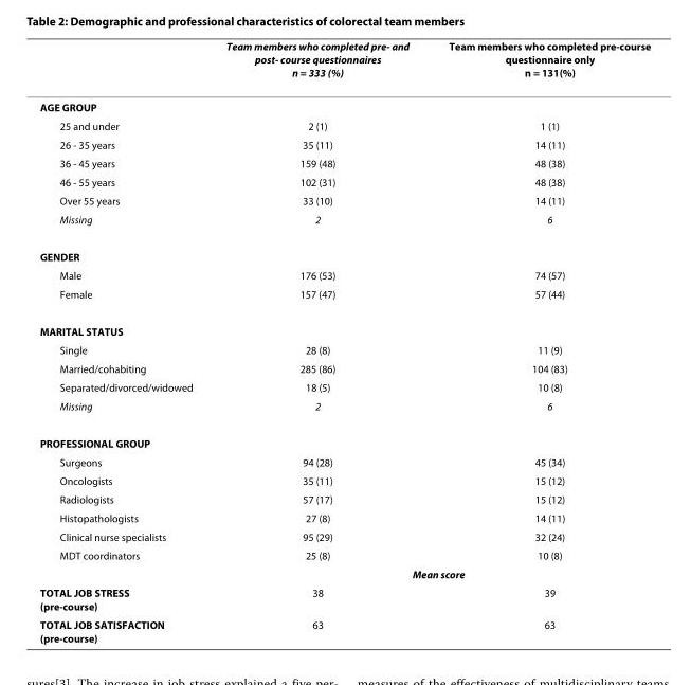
<table><thead><tr><td></td><td>Team members who completed pre- and post- course questionnaires n = 333 (%)</td><td>Team members who completed pre-course questionnaire only n = 131(%)</td></tr></thead><tbody><tr><td colspan="3">AGE GROUP</td></tr><tr><td>25 and under</td><td>2 (1)</td><td>1 (1)</td></tr><tr><td>26 - 35 years</td><td>35 (11)</td><td>14 (11)</td></tr><tr><td>36 - 45 years</td><td>159 (48)</td><td>48 (38)</td></tr><tr><td>46 - 55 years</td><td>102 (31)</td><td>48 (38)</td></tr><tr><td>Over 55 years</td><td>33 (10)</td><td>14 (11)</td></tr><tr><td>Missing</td><td>2</td><td>6</td></tr><tr><td colspan="3">GENDER</td></tr><tr><td>Male</td><td>176 (53)</td><td>74 (57)</td></tr><tr><td>Female</td><td>157 (47)</td><td>57 (44)</td></tr><tr><td colspan="3">MARITAL STATUS</td></tr><tr><td>Single</td><td>28 (8)</td><td>11 (9)</td></tr><tr><td>Married/cohabiting</td><td>285 (86)</td><td>104 (83)</td></tr><tr><td>Separated/divorced/widowed</td><td>18 (5)</td><td>10 (8)</td></tr><tr><td>Missing</td><td>2</td><td>6</td></tr><tr><td colspan="3">PROFESSIONAL GROUP</td></tr><tr><td>Surgeons</td><td>94 (28)</td><td>45 (34)</td></tr><tr><td>Oncologists</td><td>35 (11)</td><td>15 (12)</td></tr><tr><td>Radiologists</td><td>57 (17)</td><td>15 (12)</td></tr><tr><td>Histopathologists</td><td>27 (8)</td><td>14 (11)</td></tr><tr><td>Clinical nurse specialists</td><td>95 (29)</td><td>32 (24)</td></tr><tr><td rowspan="2">MDT coordinators</td><td>25 (8)</td><td>10 (8)</td></tr><tr><td colspan="2">Mean score</td></tr><tr><td>TOTAL JOB STRESS (pre-course)</td><td>38</td><td>39</td></tr><tr><td>TOTAL JOB SATISFACTION (pre-course)</td><td>63</td><td>63</td></tr></tbody></table>